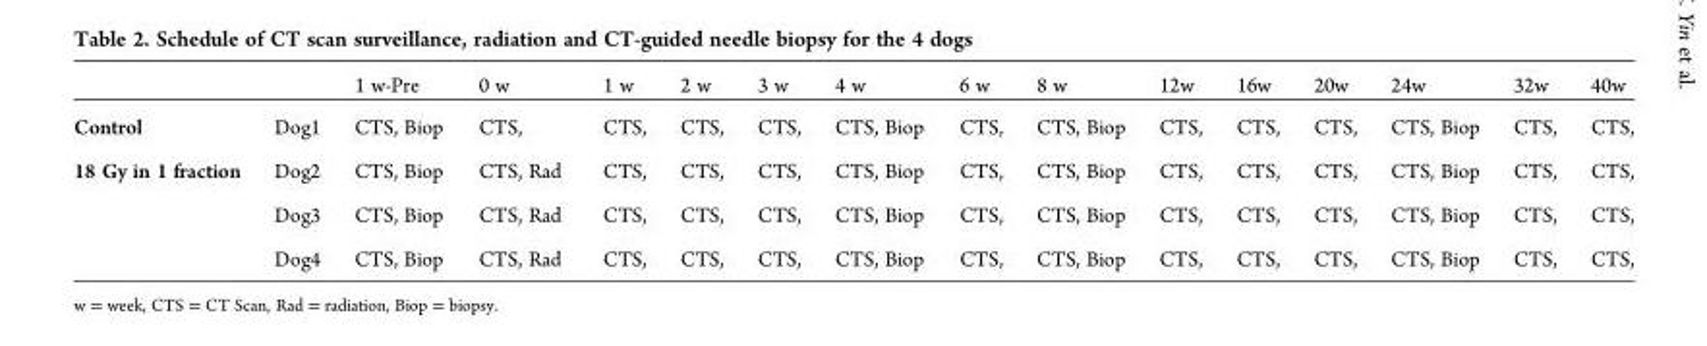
<table><thead><tr><td></td><td></td><td>1 w-Pre</td><td>0 w</td><td>1 w</td><td>2 w</td><td>3 w</td><td>4 w</td><td>6 w</td><td>8 w</td><td>12w</td><td>16w</td><td>20w</td><td>24w</td><td>32w</td><td>40w</td></tr></thead><tbody><tr><td>Control</td><td>Dog1</td><td>CTS, Biop</td><td>CTS,</td><td>CTS,</td><td>CTS,</td><td>CTS,</td><td>CTS, Biop</td><td>CTS,</td><td>CTS, Biop</td><td>CTS,</td><td>CTS,</td><td>CTS,</td><td>CTS, Biop</td><td>CTS,</td><td>CTS,</td></tr><tr><td rowspan="3">18 Gy in 1 fraction</td><td>Dog2</td><td>CTS, Biop</td><td>CTS, Rad</td><td>CTS,</td><td>CTS,</td><td>CTS,</td><td>CTS, Biop</td><td>CTS,</td><td>CTS, Biop</td><td>CTS,</td><td>CTS,</td><td>CTS,</td><td>CTS, Biop</td><td>CTS,</td><td>CTS,</td></tr><tr><td>Dog3</td><td>CTS, Biop</td><td>CTS, Rad</td><td>CTS,</td><td>CTS,</td><td>CTS,</td><td>CTS, Biop</td><td>CTS,</td><td>CTS, Biop</td><td>CTS,</td><td>CTS,</td><td>CTS,</td><td>CTS, Biop</td><td>CTS,</td><td>CTS,</td></tr><tr><td>Dog4</td><td>CTS, Biop</td><td>CTS, Rad</td><td>CTS,</td><td>CTS,</td><td>CTS,</td><td>CTS, Biop</td><td>CTS,</td><td>CTS, Biop</td><td>CTS,</td><td>CTS,</td><td>CTS,</td><td>CTS, Biop</td><td>CTS,</td><td>CTS,</td></tr></tbody></table>